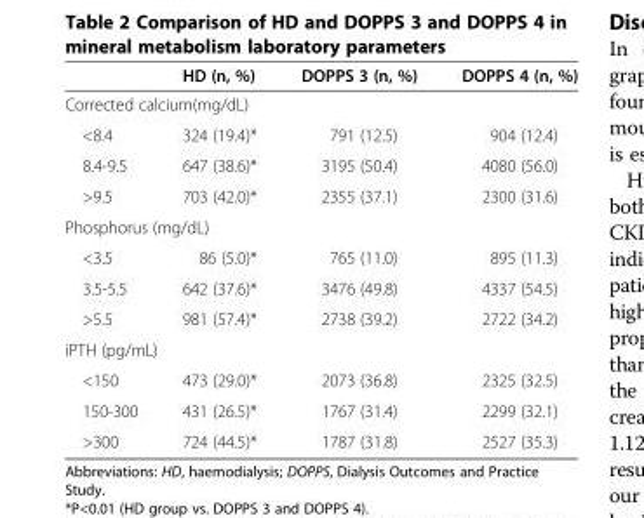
<table><thead><tr><td></td><td>HD (n, %)</td><td>DOPPS 3 (n, %)</td><td>DOPPS 4 (n, %)</td></tr></thead><tbody><tr><td colspan="4">Corrected calcium(mg/dL)</td></tr><tr><td>&lt;8.4</td><td>324 (19.4)*</td><td>791 (12.5)</td><td>904 (12.4)</td></tr><tr><td>8.4-9.5</td><td>647 (38.6)*</td><td>3195 (50.4)</td><td>4080 (56.0)</td></tr><tr><td>&gt;9.5</td><td>703 (42.0)*</td><td>2355 (37.1)</td><td>2300 (31.6)</td></tr><tr><td colspan="4">Phosphorus (mg/dL)</td></tr><tr><td>&lt;3.5</td><td>86 (5.0)*</td><td>765 (11.0)</td><td>895 (11.3)</td></tr><tr><td>3.5-5.5</td><td>642 (37.6)*</td><td>3476 (49.8)</td><td>4337 (54.5)</td></tr><tr><td>&gt;5.5</td><td>981 (57.4)*</td><td>2738 (39.2)</td><td>2722 (34.2)</td></tr><tr><td colspan="4">iPTH (pg/mL)</td></tr><tr><td>&lt;150</td><td>473 (29.0)*</td><td>2073 (36.8)</td><td>2325 (32.5)</td></tr><tr><td>150-300</td><td>431 (26.5)*</td><td>1767 (31.4)</td><td>2299 (32.1)</td></tr><tr><td>&gt;300</td><td>724 (44.5)*</td><td>1787 (31.8)</td><td>2527 (35.3)</td></tr></tbody></table>